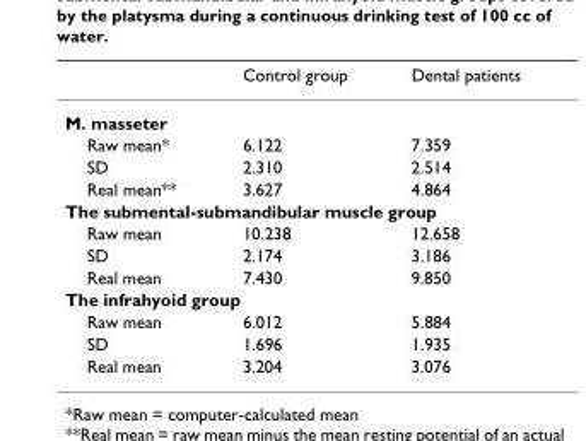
<table><thead><tr><td></td><td>Control group</td><td>Dental patients</td></tr></thead><tbody><tr><td colspan="3">M. masseter</td></tr><tr><td>Raw mean*</td><td>6.122</td><td>7.359</td></tr><tr><td>SD</td><td>2.310</td><td>2.514</td></tr><tr><td>Real mean**</td><td>3.627</td><td>4.864</td></tr><tr><td colspan="3">The submental-submandibular muscle group</td></tr><tr><td>Raw mean</td><td>10.238</td><td>12.658</td></tr><tr><td>SD</td><td>2.174</td><td>3.186</td></tr><tr><td>Real mean</td><td>7.430</td><td>9.850</td></tr><tr><td colspan="3">The infrahyoid group</td></tr><tr><td>Raw mean</td><td>6.012</td><td>5.884</td></tr><tr><td>SD</td><td>1.696</td><td>1.935</td></tr><tr><td>Real mean</td><td>3.204</td><td>3.076</td></tr></tbody></table>